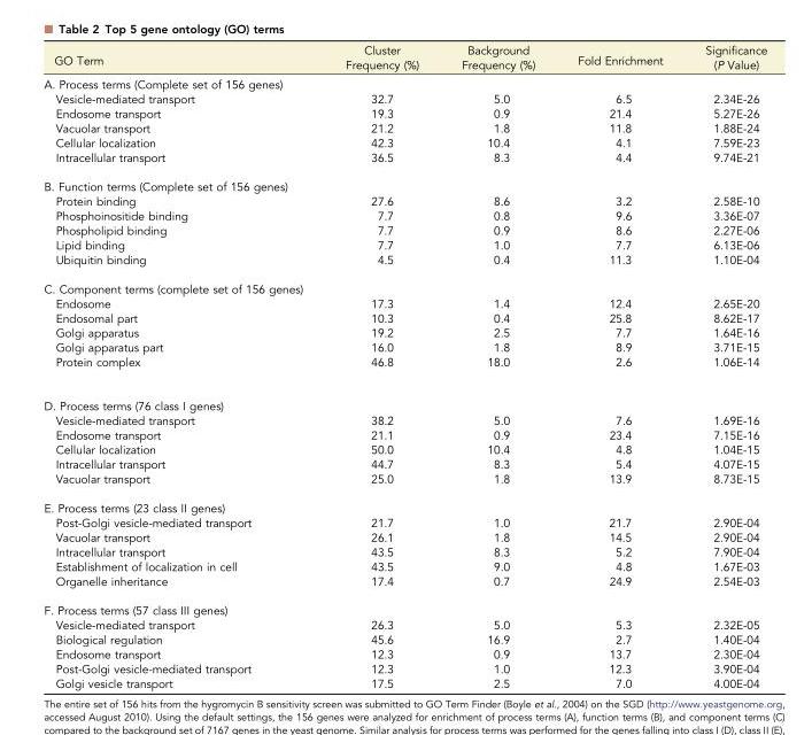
<table><thead><tr><td>GO Term</td><td>Cluster Frequency (%)</td><td>Background Frequency (%)</td><td>Fold Enrichment</td><td>Significance (P Value)</td></tr></thead><tbody><tr><td colspan="5">A. Process terms (Complete set of 156 genes)</td></tr><tr><td>Vesicle-mediated transport</td><td>32.7</td><td>5.0</td><td>6.5</td><td>2.34E-26</td></tr><tr><td>Endosome transport</td><td>19.3</td><td>0.9</td><td>21.4</td><td>5.27E-26</td></tr><tr><td>Vacuolar transport</td><td>21.2</td><td>1.8</td><td>11.8</td><td>1.88E-24</td></tr><tr><td>Cellular localization</td><td>42.3</td><td>10.4</td><td>4.1</td><td>7.59E-23</td></tr><tr><td>Intracellular transport</td><td>36.5</td><td>8.3</td><td>4.4</td><td>9.74E-21</td></tr><tr><td colspan="5">B. Function terms (Complete set of 156 genes)</td></tr><tr><td>Protein binding</td><td>27.6</td><td>8.6</td><td>3.2</td><td>2.58E-10</td></tr><tr><td>Phosphoinositide binding</td><td>7.7</td><td>0.8</td><td>9.6</td><td>3.36E-07</td></tr><tr><td>Phospholipid binding</td><td>7.7</td><td>0.9</td><td>8.6</td><td>2.27E-06</td></tr><tr><td>Lipid binding</td><td>7.7</td><td>1.0</td><td>7.7</td><td>6.13E-06</td></tr><tr><td>Ubiquitin binding</td><td>4.5</td><td>0.4</td><td>11.3</td><td>1.10E-04</td></tr><tr><td colspan="5">C. Component terms (complete set of 156 genes)</td></tr><tr><td>Endosome</td><td>17.3</td><td>1.4</td><td>12.4</td><td>2.65E-20</td></tr><tr><td>Endosomal part</td><td>10.3</td><td>0.4</td><td>25.8</td><td>8.62E-17</td></tr><tr><td>Golgi apparatus</td><td>19.2</td><td>2.5</td><td>7.7</td><td>1.64E-16</td></tr><tr><td>Golgi apparatus part</td><td>16.0</td><td>1.8</td><td>8.9</td><td>3.71E-15</td></tr><tr><td>Protein complex</td><td>46.8</td><td>18.0</td><td>2.6</td><td>1.06E-14</td></tr><tr><td colspan="5">D. Process terms (76 class I genes)</td></tr><tr><td>Vesicle-mediated transport</td><td>38.2</td><td>5.0</td><td>7.6</td><td>1.69E-16</td></tr><tr><td>Endosome transport</td><td>21.1</td><td>0.9</td><td>23.4</td><td>7.15E-16</td></tr><tr><td>Cellular localization</td><td>50.0</td><td>10.4</td><td>4.8</td><td>1.04E-15</td></tr><tr><td>Intracellular transport</td><td>44.7</td><td>8.3</td><td>5.4</td><td>4.07E-15</td></tr><tr><td>Vacuolar transport</td><td>25.0</td><td>1.8</td><td>13.9</td><td>8.73E-15</td></tr><tr><td colspan="5">E. Process terms (23 class II genes)</td></tr><tr><td>Post-Golgi vesicle-mediated transport</td><td>21.7</td><td>1.0</td><td>21.7</td><td>2.90E-04</td></tr><tr><td>Vacuolar transport</td><td>26.1</td><td>1.8</td><td>14.5</td><td>2.90E-04</td></tr><tr><td>Intracellular transport</td><td>43.5</td><td>8.3</td><td>5.2</td><td>7.90E-04</td></tr><tr><td>Establishment of localization in cell</td><td>43.5</td><td>9.0</td><td>4.8</td><td>1.67E-03</td></tr><tr><td>Organelle inheritance</td><td>17.4</td><td>0.7</td><td>24.9</td><td>2.54E-03</td></tr><tr><td colspan="5">F. Process terms (57 class III genes)</td></tr><tr><td>Vesicle-mediated transport</td><td>26.3</td><td>5.0</td><td>5.3</td><td>2.32E-05</td></tr><tr><td>Biological regulation</td><td>45.6</td><td>16.9</td><td>2.7</td><td>1.40E-04</td></tr><tr><td>Endosome transport</td><td>12.3</td><td>0.9</td><td>13.7</td><td>2.30E-04</td></tr><tr><td>Post-Golgi vesicle-mediated transport</td><td>12.3</td><td>1.0</td><td>12.3</td><td>3.90E-04</td></tr><tr><td>Golgi vesicle transport</td><td>17.5</td><td>2.5</td><td>7.0</td><td>4.00E-04</td></tr></tbody></table>